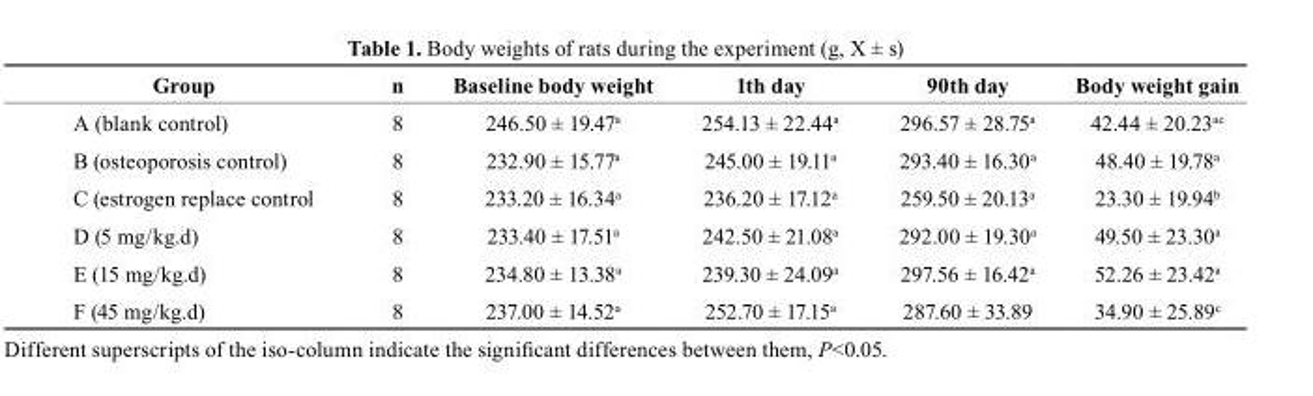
<table><thead><tr><td>Group</td><td>n</td><td>baseline body weight</td><td>1th day</td><td>90th day</td><td>body weight gain</td></tr></thead><tbody><tr><td>A (blank control)</td><td>8</td><td>246.50 ± 19.47<sup>a</sup></td><td>254.13 ± 22.44<sup>a</sup></td><td>296.57 ± 28.75<sup>a</sup></td><td>42.44 ± 20.23<sup>ac</sup></td></tr><tr><td>B (osteoporosis control)</td><td>8</td><td>232.90 ± 15.77<sup>a</sup></td><td>245.00 ± 19.11<sup>a</sup></td><td>293.40 ± 16.30<sup>a</sup></td><td>48.40 ± 19.78<sup>a</sup></td></tr><tr><td>C (estrogen replace control</td><td>8</td><td>233.20 ± 16.34<sup>a</sup></td><td>236.20 ± 17.12<sup>a</sup></td><td>259.50 ± 20.13<sup>a</sup></td><td>23.30 ± 19.94<sup>b</sup></td></tr><tr><td>D (5 mg/kg.d)</td><td>8</td><td>233.40 ± 17.51<sup>a</sup></td><td>242.50 ± 21.08<sup>a</sup></td><td>292.00 ± 19.30<sup>a</sup></td><td>49.50 ± 23.30<sup>a</sup></td></tr><tr><td>E (15 mg/kg.d)</td><td>8</td><td>234.80 ± 13.38<sup>a</sup></td><td>239.30 ± 24.09<sup>a</sup></td><td>297.56 ± 16.42<sup>a</sup></td><td>52.26 ± 23.42<sup>a</sup></td></tr><tr><td>F (45 mg/kg.d)</td><td>8</td><td>237.00 ± 14.52<sup>a</sup></td><td>252.70 ± 17.15<sup>a</sup></td><td>287.60 ± 33.89</td><td>34.90 ± 25.89<sup>c</sup></td></tr></tbody></table>